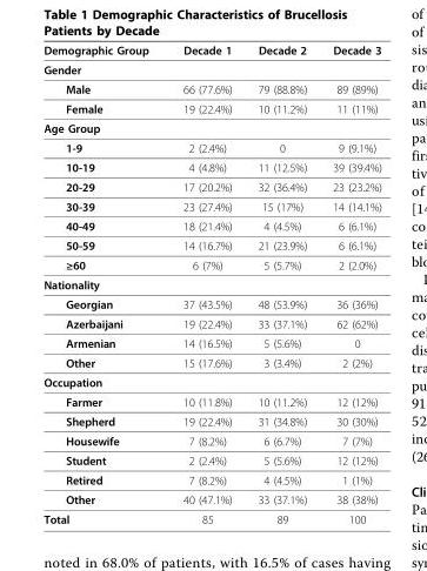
<table><thead><tr><td>Demographic Group</td><td>Decade 1</td><td>Decade 2</td><td>Decade 3</td></tr></thead><tbody><tr><td colspan="4">Gender</td></tr><tr><td>Male</td><td>66 (77.6%)</td><td>79 (88.8%)</td><td>89 (89%)</td></tr><tr><td>Female</td><td>19 (22.4%)</td><td>10 (11.2%)</td><td>11 (11%)</td></tr><tr><td colspan="4">Age Group</td></tr><tr><td>1-9</td><td>2 (2.4%)</td><td>0</td><td>9 (9.1%)</td></tr><tr><td>10-19</td><td>4 (4.8%)</td><td>11 (12.5%)</td><td>39 (39.4%)</td></tr><tr><td>20-29</td><td>17 (20.2%)</td><td>32 (36.4%)</td><td>23 (23.2%)</td></tr><tr><td>30-39</td><td>23 (27.4%)</td><td>15 (17%)</td><td>14 (14.1%)</td></tr><tr><td>40-49</td><td>18 (21.4%)</td><td>4 (4.5%)</td><td>6 (6.1%)</td></tr><tr><td>50-59</td><td>14 (16.7%)</td><td>21 (23.9%)</td><td>6 (6.1%)</td></tr><tr><td>≥60</td><td>6 (7%)</td><td>5 (5.7%)</td><td>2 (2.0%)</td></tr><tr><td colspan="4">Nationality</td></tr><tr><td>Georgian</td><td>37 (43.5%)</td><td>48 (53.9%)</td><td>36 (36%)</td></tr><tr><td>Azerbaijani</td><td>19 (22.4%)</td><td>33 (37.1%)</td><td>62 (62%)</td></tr><tr><td>Armenian</td><td>14 (16.5%)</td><td>5 (5.6%)</td><td>0</td></tr><tr><td>Other</td><td>15 (17.6%)</td><td>3 (3.4%)</td><td>2 (2%)</td></tr><tr><td colspan="4">Occupation</td></tr><tr><td>Farmer</td><td>10 (11.8%)</td><td>10 (11.2%)</td><td>12 (12%)</td></tr><tr><td>Shepherd</td><td>19 (22.4%)</td><td>31 (34.8%)</td><td>30 (30%)</td></tr><tr><td>Housewife</td><td>7 (8.2%)</td><td>6 (6.7%)</td><td>7 (7%)</td></tr><tr><td>Student</td><td>2 (2.4%)</td><td>5 (5.6%)</td><td>12 (12%)</td></tr><tr><td>Retired</td><td>7 (8.2%)</td><td>4 (4.5%)</td><td>1 (1%)</td></tr><tr><td>Other</td><td>40 (47.1%)</td><td>33 (37.1%)</td><td>38 (38%)</td></tr><tr><td>Total</td><td>85</td><td>89</td><td>100</td></tr></tbody></table>